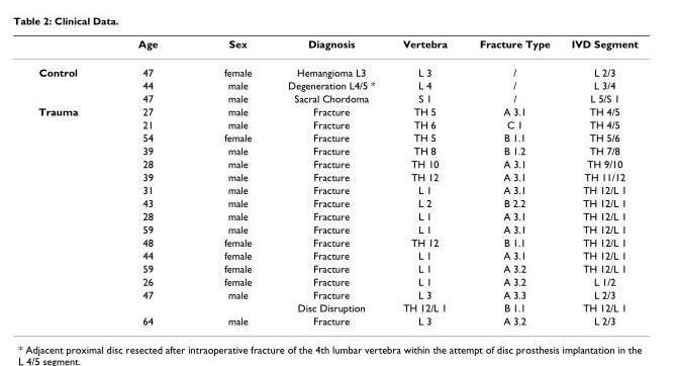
<table><thead><tr><td></td><td>Age</td><td>Sex</td><td>Diagnosis</td><td>Vertebra</td><td>Fracture Type</td><td>IVD Segment</td></tr></thead><tbody><tr><td rowspan="3">Control</td><td>47</td><td>female</td><td>Hemangioma L3</td><td>L 3</td><td>/</td><td>L 2/3</td></tr><tr><td>44</td><td>male</td><td>Degeneration L4/5 *</td><td>L 4</td><td>/</td><td>L 3/4</td></tr><tr><td>47</td><td>male</td><td>Sacral Chordoma</td><td>S 1</td><td>/</td><td>L 5/S 1</td></tr><tr><td rowspan="17">Trauma</td><td>27</td><td>male</td><td>Fracture</td><td>TH 5</td><td>A 3.1</td><td>TH 4/5</td></tr><tr><td>21</td><td>male</td><td>Fracture</td><td>TH 6</td><td>C 1</td><td>TH 4/5</td></tr><tr><td>54</td><td>female</td><td>Fracture</td><td>TH 5</td><td>B 1.1</td><td>TH 5/6</td></tr><tr><td>39</td><td>male</td><td>Fracture</td><td>TH 8</td><td>B 1.2</td><td>TH 7/8</td></tr><tr><td>28</td><td>male</td><td>Fracture</td><td>TH 10</td><td>A 3.1</td><td>TH 9/10</td></tr><tr><td>39</td><td>male</td><td>Fracture</td><td>TH 12</td><td>A 3.1</td><td>TH 11/12</td></tr><tr><td>31</td><td>male</td><td>Fracture</td><td>L 1</td><td>A 3.1</td><td>TH 12/L 1</td></tr><tr><td>43</td><td>male</td><td>Fracture</td><td>L 2</td><td>B 2.2</td><td>TH 12/L 1</td></tr><tr><td>28</td><td>male</td><td>Fracture</td><td>L 1</td><td>A 3.1</td><td>TH 12/L 1</td></tr><tr><td>59</td><td>male</td><td>Fracture</td><td>L 1</td><td>A 3.1</td><td>TH 12/L 1</td></tr><tr><td>48</td><td>female</td><td>Fracture</td><td>TH 12</td><td>B 1.1</td><td>TH 12/L 1</td></tr><tr><td>44</td><td>female</td><td>Fracture</td><td>L 1</td><td>A 3.1</td><td>TH 12/L 1</td></tr><tr><td>59</td><td>female</td><td>Fracture</td><td>L 1</td><td>A 3.2</td><td>TH 12/L 1</td></tr><tr><td>26</td><td>female</td><td>Fracture</td><td>L 1</td><td>A 3.2</td><td>L 1/2</td></tr><tr><td>47</td><td>male</td><td>Fracture</td><td>L 3</td><td>A 3.3</td><td>L 2/3</td></tr><tr><td></td><td></td><td>Disc Disruption</td><td>TH 12/L 1</td><td>B 1.1</td><td>TH 12/L 1</td></tr><tr><td>64</td><td>male</td><td>Fracture</td><td>L 3</td><td>A 3.2</td><td>L 2/3</td></tr></tbody></table>